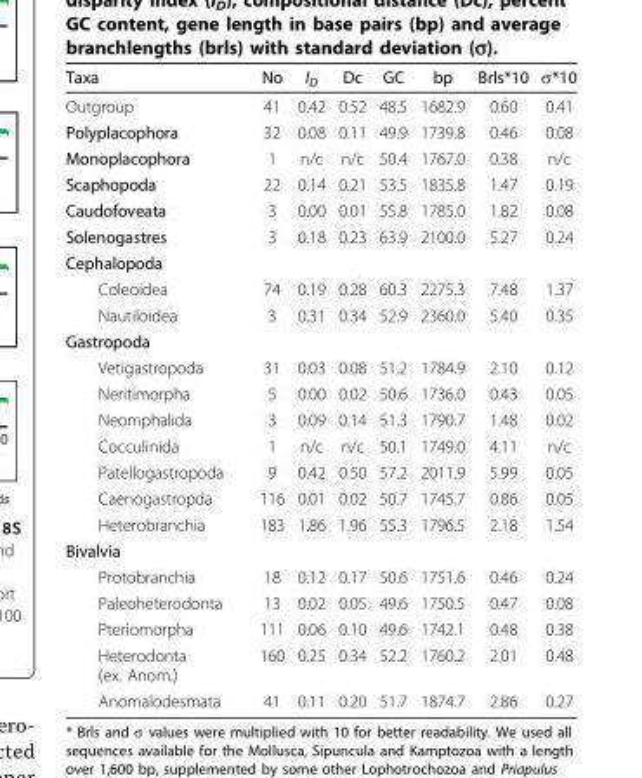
<table><thead><tr><td>Taxa</td><td>No</td><td>I<sub>D</sub></td><td>Dc</td><td>GC</td><td>bp</td><td>Brls*10</td><td>σ*10</td></tr></thead><tbody><tr><td>Outgroup</td><td>41</td><td>0.42</td><td>0.52</td><td>48.5</td><td>1682.9</td><td>0.60</td><td>0.41</td></tr><tr><td>Polyplacophora</td><td>32</td><td>0.08</td><td>0.11</td><td>49.9</td><td>1739.8</td><td>0.46</td><td>0.08</td></tr><tr><td>Monoplacophora</td><td>1</td><td>n/c</td><td>n/c</td><td>50.4</td><td>1767.0</td><td>0.38</td><td>n/c</td></tr><tr><td>Scaphopoda</td><td>22</td><td>0.14</td><td>0.21</td><td>53.5</td><td>1835.8</td><td>1.47</td><td>0.19</td></tr><tr><td>Caudofoveata</td><td>3</td><td>0.00</td><td>0.01</td><td>55.8</td><td>1785.0</td><td>1.82</td><td>0.08</td></tr><tr><td>Solenogastres</td><td>3</td><td>0.18</td><td>0.23</td><td>63.9</td><td>2100.0</td><td>5.27</td><td>0.24</td></tr><tr><td colspan="8">Cephalopoda</td></tr><tr><td>Coleoidea</td><td>74</td><td>0.19</td><td>0.28</td><td>60.3</td><td>2275.3</td><td>7.48</td><td>1.37</td></tr><tr><td>Nautiloidea</td><td>3</td><td>0.31</td><td>0.34</td><td>52.9</td><td>2360.0</td><td>5.40</td><td>0.35</td></tr><tr><td colspan="8">Gastropoda</td></tr><tr><td>Vetigastropoda</td><td>31</td><td>0.03</td><td>0.08</td><td>51.2</td><td>1784.9</td><td>2.10</td><td>0.12</td></tr><tr><td>Neritimorpha</td><td>5</td><td>0.00</td><td>0.02</td><td>50.6</td><td>1736.0</td><td>0.43</td><td>0.05</td></tr><tr><td>Neomphalida</td><td>3</td><td>0.09</td><td>0.14</td><td>51.3</td><td>1790.7</td><td>1.48</td><td>0.02</td></tr><tr><td>Cocculinida</td><td>1</td><td>n/c</td><td>n/c</td><td>50.1</td><td>1749.0</td><td>4.11</td><td>n/c</td></tr><tr><td>Patellogastropoda</td><td>9</td><td>0.42</td><td>0.50</td><td>57.2</td><td>2011.9</td><td>5.99</td><td>0.05</td></tr><tr><td>Caenogastropda</td><td>116</td><td>0.01</td><td>0.02</td><td>50.7</td><td>1745.7</td><td>0.86</td><td>0.05</td></tr><tr><td>Heterobranchia</td><td>183</td><td>1.86</td><td>1.96</td><td>55.3</td><td>1796.5</td><td>2.18</td><td>1.54</td></tr><tr><td colspan="8">Bivalvia</td></tr><tr><td>Protobranchia</td><td>18</td><td>0.12</td><td>0.17</td><td>50.6</td><td>1751.6</td><td>0.46</td><td>0.24</td></tr><tr><td>Paleoheterodonta</td><td>13</td><td>0.02</td><td>0.05</td><td>49.6</td><td>1750.5</td><td>0.47</td><td>0.08</td></tr><tr><td>Pteriomorpha</td><td>111</td><td>0.06</td><td>0.10</td><td>49.6</td><td>1742.1</td><td>0.48</td><td>0.38</td></tr><tr><td>Heterodonta (ex. Anom.)</td><td>160</td><td>0.25</td><td>0.34</td><td>52.2</td><td>1760.2</td><td>2.01</td><td>0.48</td></tr><tr><td>Anomalodesmata</td><td>41</td><td>0.11</td><td>0.20</td><td>51.7</td><td>1874.7</td><td>2.86</td><td>0.27</td></tr></tbody></table>